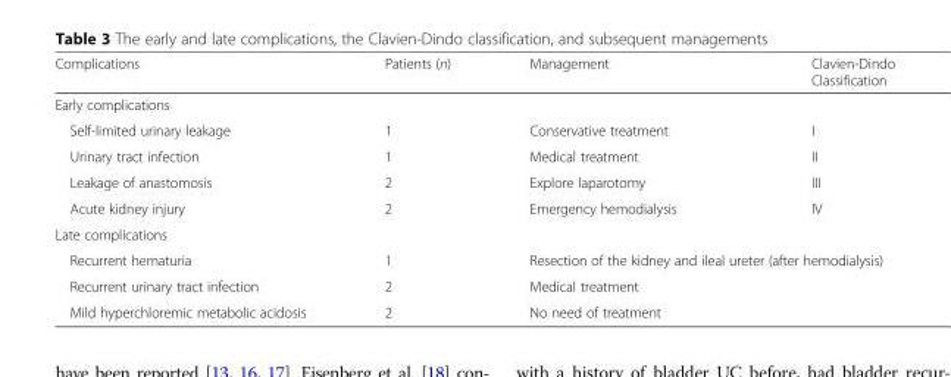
<table><thead><tr><td>Complications</td><td>Patients (n)</td><td>Management</td><td>Clavien-Dindo Classification</td></tr></thead><tbody><tr><td colspan="4">Early complications</td></tr><tr><td>Self-limited urinary leakage</td><td>1</td><td>Conservative treatment</td><td>I</td></tr><tr><td>Urinary tract infection</td><td>1</td><td>Medical treatment</td><td>II</td></tr><tr><td>Leakage of anastomosis</td><td>2</td><td>Explore laparotomy</td><td>III</td></tr><tr><td>Acute kidney injury</td><td>2</td><td>Emergency hemodialysis</td><td>IV</td></tr><tr><td colspan="4">Late complications</td></tr><tr><td>Recurrent hematuria</td><td>1</td><td colspan="2">Resection of the kidney and ileal ureter (after hemodialysis)</td></tr><tr><td>Recurrent urinary tract infection</td><td>2</td><td colspan="2">Medical treatment</td></tr><tr><td>Mild hyperchloremic metabolic acidosis</td><td>2</td><td colspan="2">No need of treatment</td></tr></tbody></table>